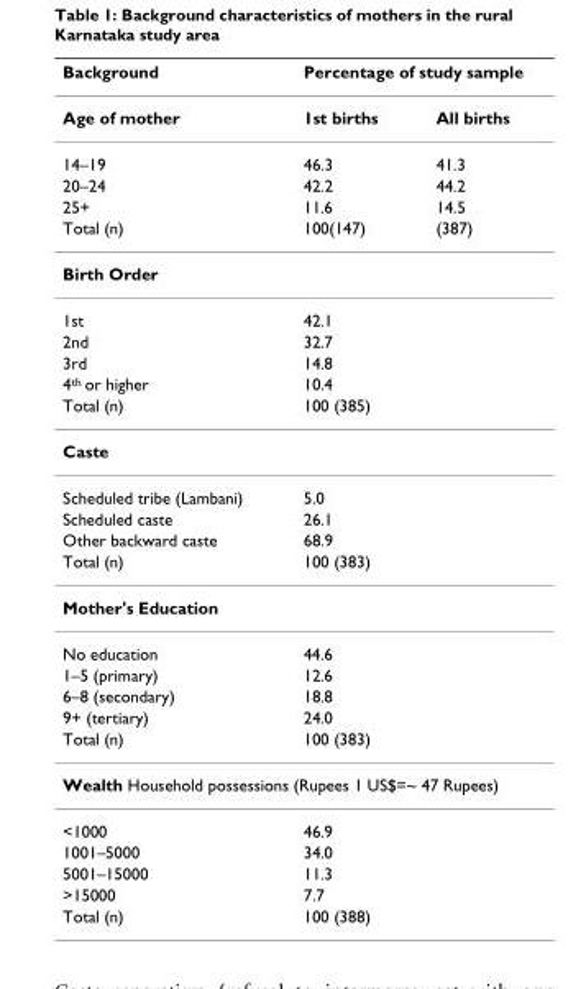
<table><thead><tr><td rowspan="2">Background Age of mother</td><td colspan="2">Percentage of study sample</td></tr><tr><td>1st births</td><td>All births</td></tr></thead><tbody><tr><td>14–19</td><td>46.3</td><td>41.3</td></tr><tr><td>20–24</td><td>42.2</td><td>44.2</td></tr><tr><td>25+</td><td>11.6</td><td>14.5</td></tr><tr><td>Total (n)</td><td>100(147)</td><td>(387)</td></tr><tr><td colspan="3">Birth Order</td></tr><tr><td>1st</td><td>42.1</td><td></td></tr><tr><td>2nd</td><td>32.7</td><td></td></tr><tr><td>3rd</td><td>14.8</td><td></td></tr><tr><td>4<sup>th</sup> or higher</td><td>10.4</td><td></td></tr><tr><td>Total (n)</td><td>100 (385)</td><td></td></tr><tr><td colspan="3">Caste</td></tr><tr><td>Scheduled tribe (Lambani)</td><td>5.0</td><td></td></tr><tr><td>Scheduled caste</td><td>26.1</td><td></td></tr><tr><td>Other backward caste</td><td>68.9</td><td></td></tr><tr><td>Total (n)</td><td>100 (383)</td><td></td></tr><tr><td colspan="3">Mother&#x27;s Education</td></tr><tr><td>No education</td><td>44.6</td><td></td></tr><tr><td>1–5 (primary)</td><td>12.6</td><td></td></tr><tr><td>6–8 (secondary)</td><td>18.8</td><td></td></tr><tr><td>9+ (tertiary)</td><td>24.0</td><td></td></tr><tr><td>Total (n)</td><td>100 (383)</td><td></td></tr><tr><td colspan="3">Wealth Household possessions (Rupees 1 US$=~ 47 Rupees)</td></tr><tr><td>&lt;1000</td><td>46.9</td><td></td></tr><tr><td>1001–5000</td><td>34.0</td><td></td></tr><tr><td>5001–15000</td><td>11.3</td><td></td></tr><tr><td>&gt;15000</td><td>7.7</td><td></td></tr><tr><td>Total (n)</td><td>100 (388)</td><td></td></tr></tbody></table>